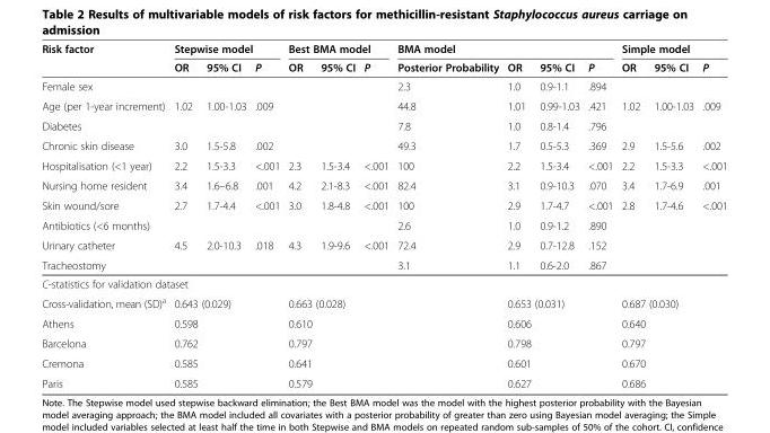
<table><thead><tr><td rowspan="2">Risk factor</td><td colspan="3">Stepwise model</td><td colspan="3">Best BMA model</td><td colspan="4">BMA model</td><td colspan="3">Simple model</td></tr><tr><td>OR</td><td>95% CI</td><td>P</td><td>OR</td><td>95% CI</td><td>P</td><td>Posterior Probability</td><td>OR</td><td>95% CI</td><td>P</td><td>OR</td><td>95% CI</td><td>P</td></tr></thead><tbody><tr><td>Female sex</td><td></td><td></td><td></td><td></td><td></td><td></td><td>2.3</td><td>1.0</td><td>0.9-1.1</td><td>.894</td><td></td><td></td><td></td></tr><tr><td>Age (per 1-year increment)</td><td>1.02</td><td>1.00-1.03</td><td>.009</td><td></td><td></td><td></td><td>44.8</td><td>1.01</td><td>0.99-1.03</td><td>.421</td><td>1.02</td><td>1.00-1.03</td><td>.009</td></tr><tr><td>Diabetes</td><td></td><td></td><td></td><td></td><td></td><td></td><td>7.8</td><td>1.0</td><td>0.8-1.4</td><td>.796</td><td></td><td></td><td></td></tr><tr><td>Chronic skin disease</td><td>3.0</td><td>1.5-5.8</td><td>.002</td><td></td><td></td><td></td><td>49.3</td><td>1.7</td><td>0.5-5.3</td><td>.369</td><td>2.9</td><td>1.5-5.6</td><td>.002</td></tr><tr><td>Hospitalisation (&lt;1 year)</td><td>2.2</td><td>1.5-3.3</td><td>&lt;.001</td><td>2.3</td><td>1.5-3.4</td><td>&lt;.001</td><td>100</td><td>2.2</td><td>1.5-3.4</td><td>&lt;.001</td><td>2.2</td><td>1.5-3.3</td><td>&lt;.001</td></tr><tr><td>Nursing home resident</td><td>3.4</td><td>1.6–6.8</td><td>.001</td><td>4.2</td><td>2.1-8.3</td><td>&lt;.001</td><td>82.4</td><td>3.1</td><td>0.9-10.3</td><td>.070</td><td>3.4</td><td>1.7-6.9</td><td>.001</td></tr><tr><td>Skin wound/sore</td><td>2.7</td><td>1.7-4.4</td><td>&lt;.001</td><td>3.0</td><td>1.8-4.8</td><td>&lt;.001</td><td>100</td><td>2.9</td><td>1.7-4.7</td><td>&lt;.001</td><td>2.8</td><td>1.7-4.6</td><td>&lt;.001</td></tr><tr><td>Antibiotics (&lt;6 months)</td><td></td><td></td><td></td><td></td><td></td><td></td><td>2.6</td><td>1.0</td><td>0.9-1.2</td><td>.890</td><td></td><td></td><td></td></tr><tr><td>Urinary catheter</td><td>4.5</td><td>2.0-10.3</td><td>.018</td><td>4.3</td><td>1.9-9.6</td><td>&lt;.001</td><td>72.4</td><td>2.9</td><td>0.7-12.8</td><td>.152</td><td></td><td></td><td></td></tr><tr><td>Tracheostomy</td><td></td><td></td><td></td><td></td><td></td><td></td><td>3.1</td><td>1.1</td><td>0.6-2.0</td><td>.867</td><td></td><td></td><td></td></tr><tr><td colspan="14">C-statistics for validation dataset</td></tr><tr><td>Cross-validation, mean (SD)<sup>a</sup></td><td colspan="3">0.643 (0.029)</td><td colspan="3">0.663 (0.028)</td><td></td><td colspan="3">0.653 (0.031)</td><td colspan="3">0.687 (0.030)</td></tr><tr><td>Athens</td><td>0.598</td><td></td><td></td><td>0.610</td><td></td><td></td><td></td><td>0.606</td><td></td><td></td><td>0.640</td><td></td><td></td></tr><tr><td>Barcelona</td><td>0.762</td><td></td><td></td><td>0.797</td><td></td><td></td><td></td><td>0.798</td><td></td><td></td><td>0.797</td><td></td><td></td></tr><tr><td>Cremona</td><td>0.585</td><td></td><td></td><td>0.641</td><td></td><td></td><td></td><td>0.601</td><td></td><td></td><td>0.670</td><td></td><td></td></tr><tr><td>Paris</td><td>0.585</td><td></td><td></td><td>0.579</td><td></td><td></td><td></td><td>0.627</td><td></td><td></td><td>0.686</td><td></td><td></td></tr></tbody></table>